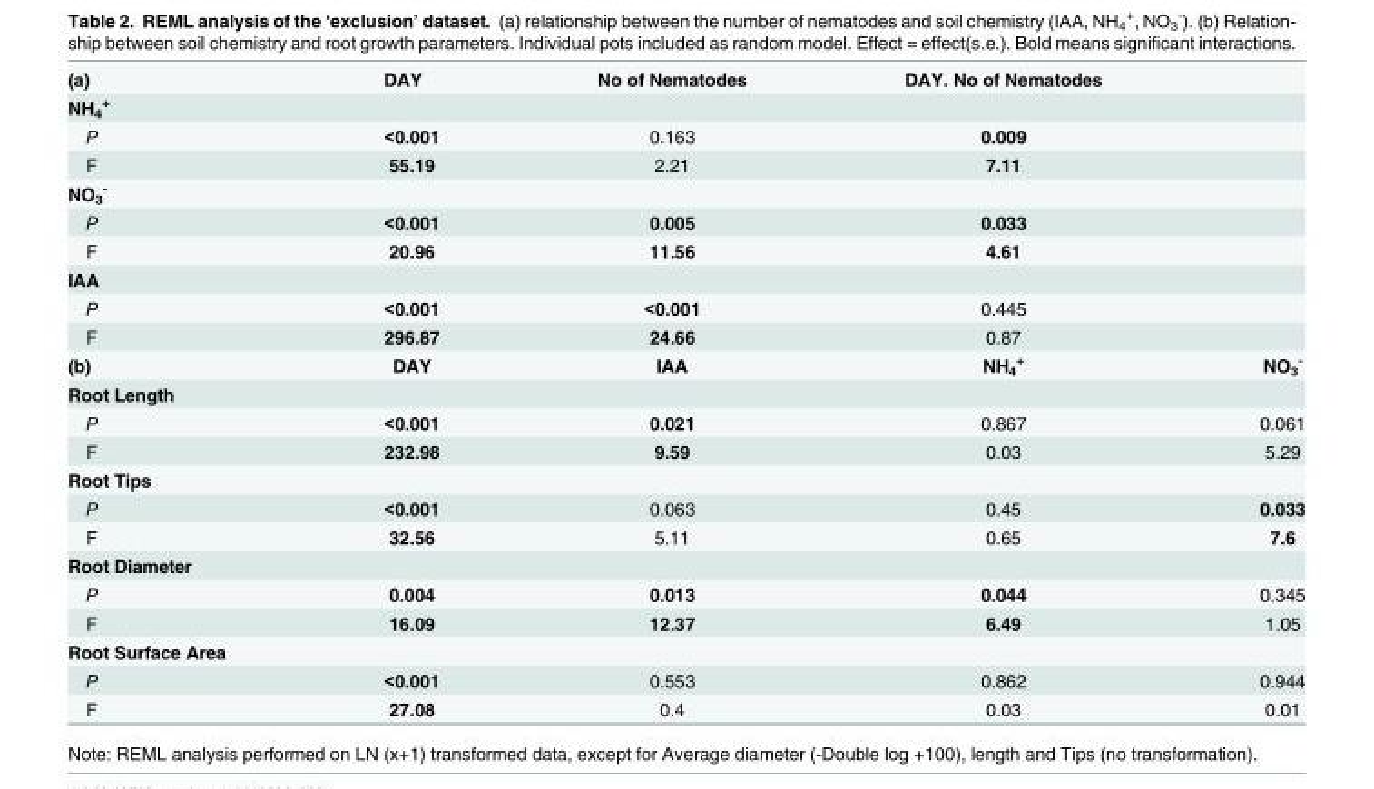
<table><tbody><tr><td>(a)</td><td>DAY</td><td>No of Nematodes</td><td>DAY. No of Nematodes</td><td></td></tr><tr><td colspan="5">NH<sub>4</sub> <sup>+</sup></td></tr><tr><td>P</td><td>&lt;0.001</td><td>0.163</td><td>0.009</td><td></td></tr><tr><td>F</td><td>55.19</td><td>2.21</td><td>7.11</td><td></td></tr><tr><td colspan="5">NO<sub>3</sub> <sup>-</sup></td></tr><tr><td>P</td><td>&lt;0.001</td><td>0.005</td><td>0.033</td><td></td></tr><tr><td>F</td><td>20.96</td><td>11.56</td><td>4.61</td><td></td></tr><tr><td colspan="5">IAA</td></tr><tr><td>P</td><td>&lt;0.001</td><td>&lt;0.001</td><td>0.445</td><td></td></tr><tr><td>F</td><td>296.87</td><td>24.66</td><td>0.87</td><td></td></tr><tr><td>(b)</td><td>DAY</td><td>IAA</td><td>NH<sub>4</sub> <sup>+</sup></td><td>NO<sub>3</sub> <sup>-</sup></td></tr><tr><td colspan="5">Root Length</td></tr><tr><td>P</td><td>&lt;0.001</td><td>0.021</td><td>0.867</td><td>0.061</td></tr><tr><td>F</td><td>232.98</td><td>9.59</td><td>0.03</td><td>5.29</td></tr><tr><td colspan="5">Root Tips</td></tr><tr><td>P</td><td>&lt;0.001</td><td>0.063</td><td>0.45</td><td>0.033</td></tr><tr><td>F</td><td>32.56</td><td>5.11</td><td>0.65</td><td>7.6</td></tr><tr><td colspan="5">Root Diameter</td></tr><tr><td>P</td><td>0.004</td><td>0.013</td><td>0.044</td><td>0.345</td></tr><tr><td>F</td><td>16.09</td><td>12.37</td><td>6.49</td><td>1.05</td></tr><tr><td colspan="5">Root Surface Area</td></tr><tr><td>P</td><td>&lt;0.001</td><td>0.553</td><td>0.862</td><td>0.944</td></tr><tr><td>F</td><td>27.08</td><td>0.4</td><td>0.03</td><td>0.01</td></tr></tbody></table>